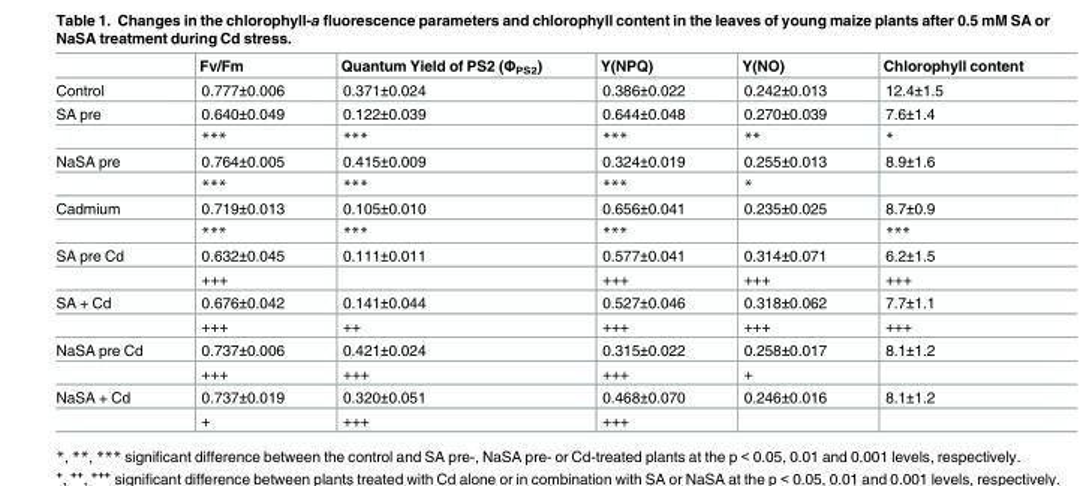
<table><thead><tr><td></td><td>Fv/Fm</td><td>Quantum Yield of PS2 (Φ<sub>PS2</sub>)</td><td>Y(NPQ)</td><td>Y(NO)</td><td>Chlorophyll content</td></tr></thead><tbody><tr><td>Control</td><td>0.777±0.006</td><td>0.371±0.024</td><td>0.386±0.022</td><td>0.242±0.013</td><td>12.4±1.5</td></tr><tr><td rowspan="2">SA pre</td><td>0.640±0.049</td><td>0.122±0.039</td><td>0.644±0.048</td><td>0.270±0.039</td><td>7.6±1.4</td></tr><tr><td>***</td><td>***</td><td>***</td><td>**</td><td>*</td></tr><tr><td rowspan="2">NaSA pre</td><td>0.764±0.005</td><td>0.415±0.009</td><td>0.324±0.019</td><td>0.255±0.013</td><td>8.9±1.6</td></tr><tr><td>***</td><td>***</td><td>***</td><td>*</td><td></td></tr><tr><td rowspan="2">Cadmium</td><td>0.719±0.013</td><td>0.105±0.010</td><td>0.656±0.041</td><td>0.235±0.025</td><td>8.7±0.9</td></tr><tr><td>***</td><td>***</td><td>***</td><td></td><td>***</td></tr><tr><td rowspan="2">SA pre Cd</td><td>0.632±0.045</td><td>0.111±0.011</td><td>0.577±0.041</td><td>0.314±0.071</td><td>6.2±1.5</td></tr><tr><td>+++</td><td></td><td>+++</td><td>+++</td><td>+++</td></tr><tr><td rowspan="2">SA + Cd</td><td>0.676±0.042</td><td>0.141±0.044</td><td>0.527±0.046</td><td>0.318±0.062</td><td>7.7±1.1</td></tr><tr><td>+++</td><td>++</td><td>+++</td><td>+++</td><td>+++</td></tr><tr><td rowspan="2">NaSA pre Cd</td><td>0.737±0.006</td><td>0.421±0.024</td><td>0.315±0.022</td><td>0.258±0.017</td><td>8.1±1.2</td></tr><tr><td>+++</td><td>+++</td><td>+++</td><td>+</td><td></td></tr><tr><td rowspan="2">NaSA + Cd</td><td>0.737±0.019</td><td>0.320±0.051</td><td>0.468±0.070</td><td>0.246±0.016</td><td>8.1±1.2</td></tr><tr><td>+</td><td>+++</td><td>+++</td><td></td><td></td></tr></tbody></table>